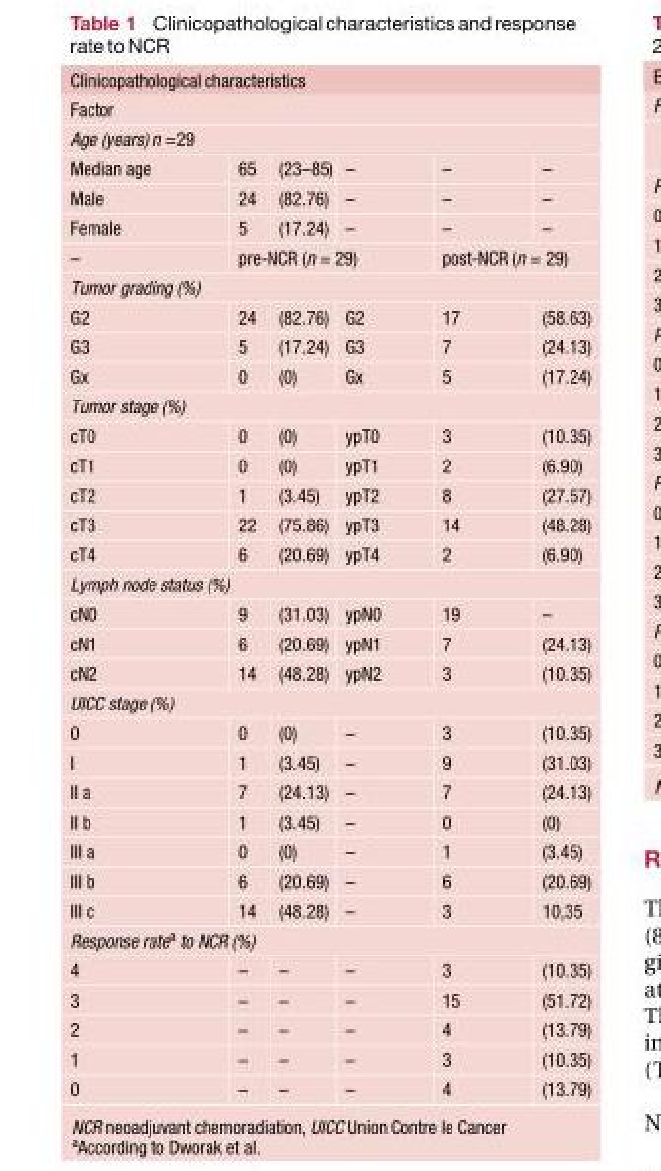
<table><thead><tr><td rowspan="3" colspan="6">Clinicopathological characteristics Factor Age (years) n =29</td></tr><tr></tr><tr></tr><tr><td>Median age</td><td>65</td><td>(23–85)</td><td>–</td><td>–</td><td>–</td></tr></thead><tbody><tr><td>Male</td><td>24</td><td>(82.76)</td><td>–</td><td>–</td><td>–</td></tr><tr><td>Female</td><td>5</td><td>(17.24)</td><td>–</td><td>–</td><td>–</td></tr><tr><td>–</td><td colspan="3">pre-NCR (n = 29)</td><td colspan="2">post-NCR (n = 29)</td></tr><tr><td colspan="6">Tumor grading (%)</td></tr><tr><td>G2</td><td>24</td><td>(82.76)</td><td>G2</td><td>17</td><td>(58.63)</td></tr><tr><td>G3</td><td>5</td><td>(17.24)</td><td>G3</td><td>7</td><td>(24.13)</td></tr><tr><td>Gx</td><td>0</td><td>(0)</td><td>Gx</td><td>5</td><td>(17.24)</td></tr><tr><td colspan="6">Tumor stage (%)</td></tr><tr><td>cT0</td><td>0</td><td>(0)</td><td>ypT0</td><td>3</td><td>(10.35)</td></tr><tr><td>cT1</td><td>0</td><td>(0)</td><td>ypT1</td><td>2</td><td>(6.90)</td></tr><tr><td>cT2</td><td>1</td><td>(3.45)</td><td>ypT2</td><td>8</td><td>(27.57)</td></tr><tr><td>cT3</td><td>22</td><td>(75.86)</td><td>ypT3</td><td>14</td><td>(48.28)</td></tr><tr><td>cT4</td><td>6</td><td>(20.69)</td><td>ypT4</td><td>2</td><td>(6.90)</td></tr><tr><td colspan="6">Lymph node status (%)</td></tr><tr><td>cN0</td><td>9</td><td>(31.03)</td><td>ypN0</td><td>19</td><td>–</td></tr><tr><td>cN1</td><td>6</td><td>(20.69)</td><td>ypN1</td><td>7</td><td>(24.13)</td></tr><tr><td>cN2</td><td>14</td><td>(48.28)</td><td>ypN2</td><td>3</td><td>(10.35)</td></tr><tr><td colspan="6">UICC stage (%)</td></tr><tr><td>0</td><td>0</td><td>(0)</td><td>–</td><td>3</td><td>(10.35)</td></tr><tr><td>I</td><td>1</td><td>(3.45)</td><td>–</td><td>9</td><td>(31.03)</td></tr><tr><td>II a</td><td>7</td><td>(24.13)</td><td>–</td><td>7</td><td>(24.13)</td></tr><tr><td>II b</td><td>1</td><td>(3.45)</td><td>–</td><td>0</td><td>(0)</td></tr><tr><td>III a</td><td>0</td><td>(0)</td><td>–</td><td>1</td><td>(3.45)</td></tr><tr><td>III b</td><td>6</td><td>(20.69)</td><td>–</td><td>6</td><td>(20.69)</td></tr><tr><td>III c</td><td>14</td><td>(48.28)</td><td>–</td><td>3</td><td>10,35</td></tr><tr><td colspan="6">Response rate<sup>a</sup> to NCR (%)</td></tr><tr><td>4</td><td>–</td><td>–</td><td>–</td><td>3</td><td>(10.35)</td></tr><tr><td>3</td><td>–</td><td>–</td><td>–</td><td>15</td><td>(51.72)</td></tr><tr><td>2</td><td>–</td><td>–</td><td>–</td><td>4</td><td>(13.79)</td></tr><tr><td>1</td><td>–</td><td>–</td><td>–</td><td>3</td><td>(10.35)</td></tr><tr><td>0</td><td>–</td><td>–</td><td>–</td><td>4</td><td>(13.79)</td></tr></tbody></table>